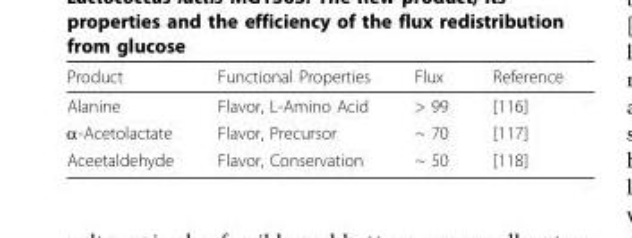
<table><thead><tr><td>Product</td><td>Functional Properties</td><td>Flux</td><td>Reference</td></tr></thead><tbody><tr><td>Alanine</td><td>Flavor, L-Amino Acid</td><td>&gt; 99</td><td>[116]</td></tr><tr><td>α-Acetolactate</td><td>Flavor, Precursor</td><td>~ 70</td><td>[117]</td></tr><tr><td>Aceetaldehyde</td><td>Flavor, Conservation</td><td>~ 50</td><td>[118]</td></tr></tbody></table>